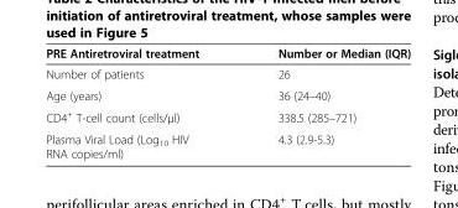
<table><thead><tr><td>PRE Antiretroviral treatment</td><td>Number or Median (IQR)</td></tr></thead><tbody><tr><td>Number of patients</td><td>26</td></tr><tr><td>Age (years)</td><td>36 (24–40)</td></tr><tr><td>CD4<sup>+</sup> T-cell count (cells/μl)</td><td>338.5 (285–721)</td></tr><tr><td>Plasma Viral Load (Log<sub>10</sub> HIV RNA copies/ml)</td><td>4.3 (2.9-5.3)</td></tr></tbody></table>